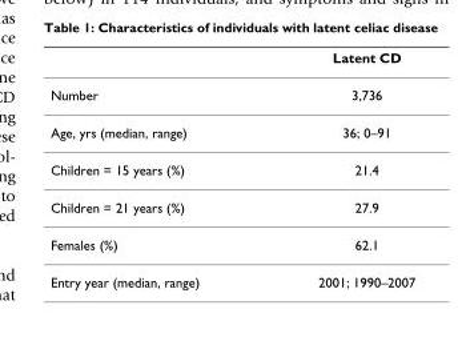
<table><thead><tr><td></td><td>Latent CD</td></tr></thead><tbody><tr><td>Number</td><td>3,736</td></tr><tr><td>Age, yrs (median, range)</td><td>36; 0–91</td></tr><tr><td>Children = 15 years (%)</td><td>21.4</td></tr><tr><td>Children = 21 years (%)</td><td>27.9</td></tr><tr><td>Females (%)</td><td>62.1</td></tr><tr><td>Entry year (median, range)</td><td>2001; 1990–2007</td></tr></tbody></table>